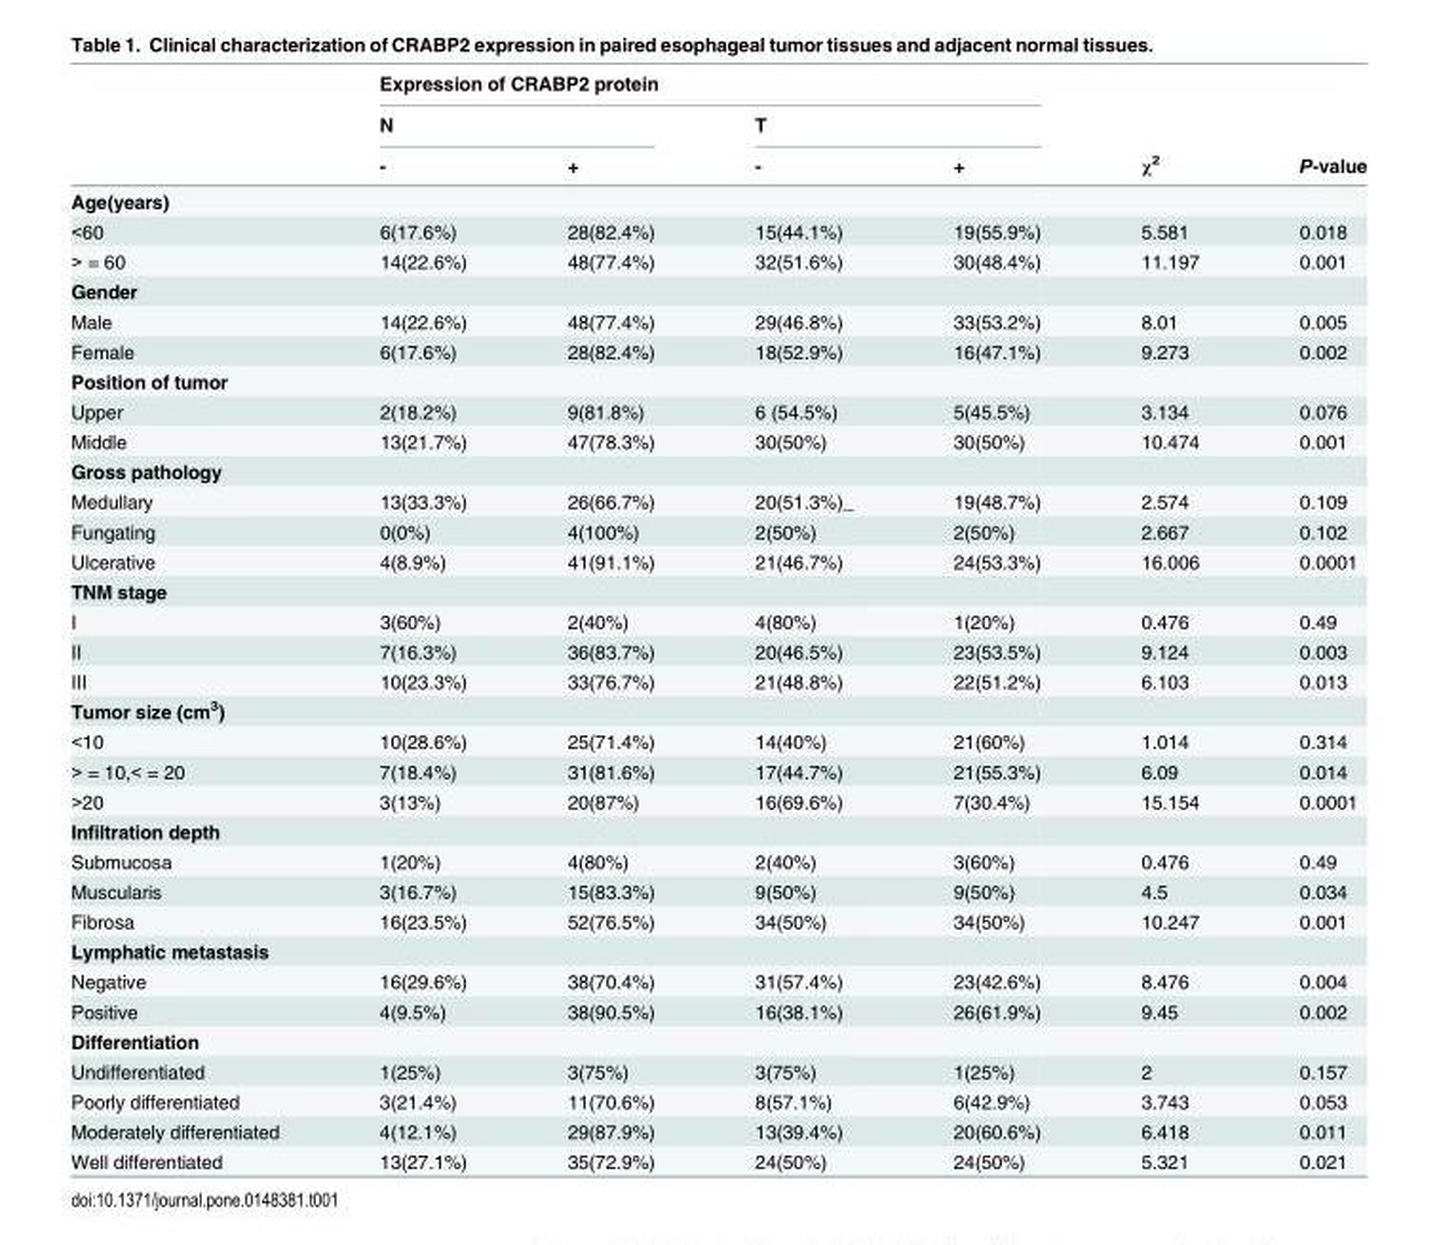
<table><thead><tr><td rowspan="3"></td><td colspan="4">Expression of CRABP2 protein</td><td rowspan="3">χ<sup>2</sup></td><td rowspan="3">P-value</td></tr><tr><td colspan="2">N</td><td colspan="2">T</td></tr><tr><td>-</td><td>+</td><td>-</td><td>+</td></tr></thead><tbody><tr><td colspan="7">Age(years)</td></tr><tr><td>&lt;60</td><td>6(17.6%)</td><td>28(82.4%)</td><td>15(44.1%)</td><td>19(55.9%)</td><td>5.581</td><td>0.018</td></tr><tr><td>&gt; = 60</td><td>14(22.6%)</td><td>48(77.4%)</td><td>32(51.6%)</td><td>30(48.4%)</td><td>11.197</td><td>0.001</td></tr><tr><td colspan="7">Gender</td></tr><tr><td>Male</td><td>14(22.6%)</td><td>48(77.4%)</td><td>29(46.8%)</td><td>33(53.2%)</td><td>8.01</td><td>0.005</td></tr><tr><td>Female</td><td>6(17.6%)</td><td>28(82.4%)</td><td>18(52.9%)</td><td>16(47.1%)</td><td>9.273</td><td>0.002</td></tr><tr><td colspan="7">Position of tumor</td></tr><tr><td>Upper</td><td>2(18.2%)</td><td>9(81.8%)</td><td>6 (54.5%)</td><td>5(45.5%)</td><td>3.134</td><td>0.076</td></tr><tr><td>Middle</td><td>13(21.7%)</td><td>47(78.3%)</td><td>30(50%)</td><td>30(50%)</td><td>10.474</td><td>0.001</td></tr><tr><td colspan="7">Gross pathology</td></tr><tr><td>Medullary</td><td>13(33.3%)</td><td>26(66.7%)</td><td>20(51.3%)_</td><td>19(48.7%)</td><td>2.574</td><td>0.109</td></tr><tr><td>Fungating</td><td>0(0%)</td><td>4(100%)</td><td>2(50%)</td><td>2(50%)</td><td>2.667</td><td>0.102</td></tr><tr><td>Ulcerative</td><td>4(8.9%)</td><td>41(91.1%)</td><td>21(46.7%)</td><td>24(53.3%)</td><td>16.006</td><td>0.0001</td></tr><tr><td colspan="7">TNM stage</td></tr><tr><td>I</td><td>3(60%)</td><td>2(40%)</td><td>4(80%)</td><td>1(20%)</td><td>0.476</td><td>0.49</td></tr><tr><td>II</td><td>7(16.3%)</td><td>36(83.7%)</td><td>20(46.5%)</td><td>23(53.5%)</td><td>9.124</td><td>0.003</td></tr><tr><td>III</td><td>10(23.3%)</td><td>33(76.7%)</td><td>21(48.8%)</td><td>22(51.2%)</td><td>6.103</td><td>0.013</td></tr><tr><td colspan="7">Tumor size (cm<sup>3</sup>)</td></tr><tr><td>&lt;10</td><td>10(28.6%)</td><td>25(71.4%)</td><td>14(40%)</td><td>21(60%)</td><td>1.014</td><td>0.314</td></tr><tr><td>&gt; = 10,&lt; = 20</td><td>7(18.4%)</td><td>31(81.6%)</td><td>17(44.7%)</td><td>21(55.3%)</td><td>6.09</td><td>0.014</td></tr><tr><td>&gt;20</td><td>3(13%)</td><td>20(87%)</td><td>16(69.6%)</td><td>7(30.4%)</td><td>15.154</td><td>0.0001</td></tr><tr><td colspan="7">Infiltration depth</td></tr><tr><td>Submucosa</td><td>1(20%)</td><td>4(80%)</td><td>2(40%)</td><td>3(60%)</td><td>0.476</td><td>0.49</td></tr><tr><td>Muscularis</td><td>3(16.7%)</td><td>15(83.3%)</td><td>9(50%)</td><td>9(50%)</td><td>4.5</td><td>0.034</td></tr><tr><td>Fibrosa</td><td>16(23.5%)</td><td>52(76.5%)</td><td>34(50%)</td><td>34(50%)</td><td>10.247</td><td>0.001</td></tr><tr><td colspan="7">Lymphatic metastasis</td></tr><tr><td>Negative</td><td>16(29.6%)</td><td>38(70.4%)</td><td>31(57.4%)</td><td>23(42.6%)</td><td>8.476</td><td>0.004</td></tr><tr><td>Positive</td><td>4(9.5%)</td><td>38(90.5%)</td><td>16(38.1%)</td><td>26(61.9%)</td><td>9.45</td><td>0.002</td></tr><tr><td colspan="7">Differentiation</td></tr><tr><td>Undifferentiated</td><td>1(25%)</td><td>3(75%)</td><td>3(75%)</td><td>1(25%)</td><td>2</td><td>0.157</td></tr><tr><td>Poorly differentiated</td><td>3(21.4%)</td><td>11(70.6%)</td><td>8(57.1%)</td><td>6(42.9%)</td><td>3.743</td><td>0.053</td></tr><tr><td>Moderately differentiated</td><td>4(12.1%)</td><td>29(87.9%)</td><td>13(39.4%)</td><td>20(60.6%)</td><td>6.418</td><td>0.011</td></tr><tr><td>Well differentiated</td><td>13(27.1%)</td><td>35(72.9%)</td><td>24(50%)</td><td>24(50%)</td><td>5.321</td><td>0.021</td></tr></tbody></table>